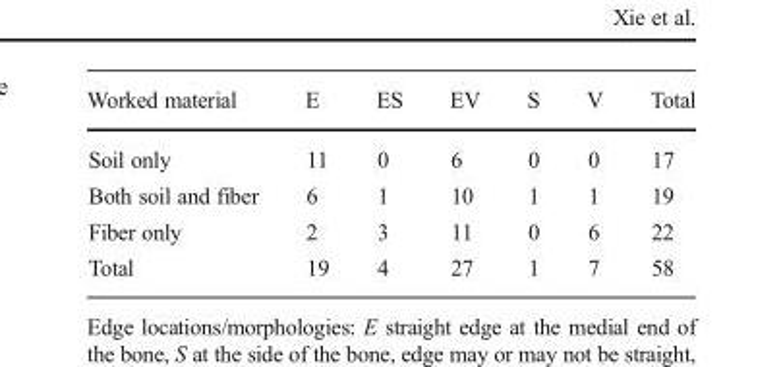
<table><thead><tr><td>Worked material</td><td>E</td><td>ES</td><td>EV</td><td>S</td><td>V</td><td>Total</td></tr></thead><tbody><tr><td>Soil only</td><td>11</td><td>0</td><td>6</td><td>0</td><td>0</td><td>17</td></tr><tr><td>Both soil and fiber</td><td>6</td><td>1</td><td>10</td><td>1</td><td>1</td><td>19</td></tr><tr><td>Fiber only</td><td>2</td><td>3</td><td>11</td><td>0</td><td>6</td><td>22</td></tr><tr><td>Total</td><td>19</td><td>4</td><td>27</td><td>1</td><td>7</td><td>58</td></tr></tbody></table>